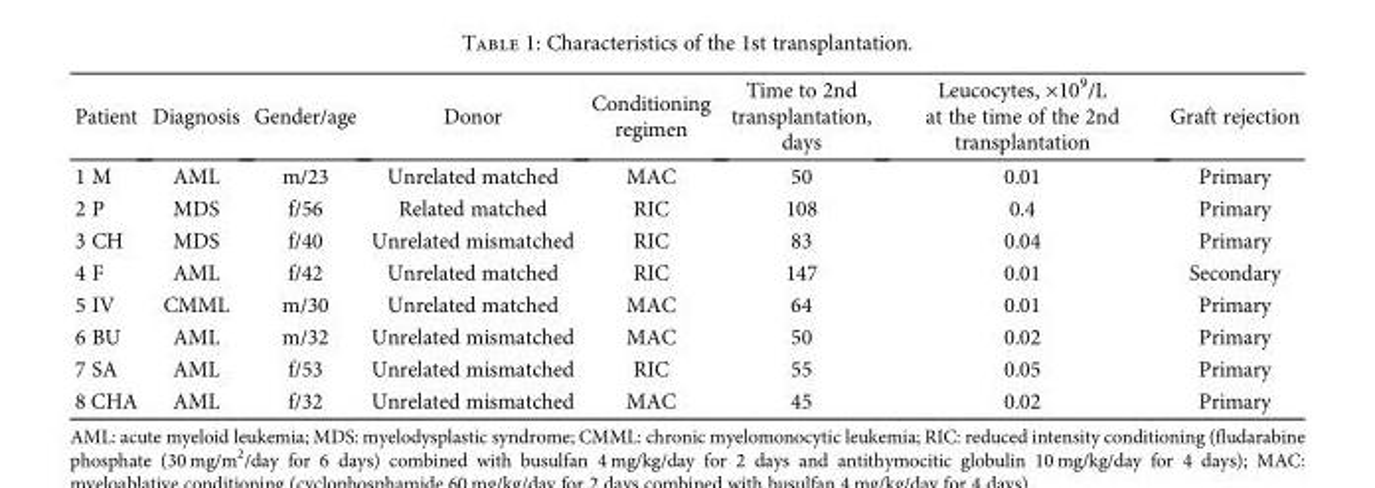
<table><thead><tr><td>Patient</td><td>Diagnosis</td><td>Gender/age</td><td>Donor</td><td>Conditioning regimen</td><td>Time to 2nd transplantation, days</td><td>Leucocytes, ×10<sup>9</sup>/L at the time of the 2nd transplantation</td><td>Graft rejection</td></tr></thead><tbody><tr><td>1 M</td><td>AML</td><td>m/23</td><td>Unrelated matched</td><td>MAC</td><td>50</td><td>0.01</td><td>Primary</td></tr><tr><td>2 P</td><td>MDS</td><td>f/56</td><td>Related matched</td><td>RIC</td><td>108</td><td>0.4</td><td>Primary</td></tr><tr><td>3 CH</td><td>MDS</td><td>f/40</td><td>Unrelated mismatched</td><td>RIC</td><td>83</td><td>0.04</td><td>Primary</td></tr><tr><td>4 F</td><td>AML</td><td>f/42</td><td>Unrelated matched</td><td>RIC</td><td>147</td><td>0.01</td><td>Secondary</td></tr><tr><td>5 IV</td><td>CMML</td><td>m/30</td><td>Unrelated matched</td><td>MAC</td><td>64</td><td>0.01</td><td>Primary</td></tr><tr><td>6 BU</td><td>AML</td><td>m/32</td><td>Unrelated mismatched</td><td>MAC</td><td>50</td><td>0.02</td><td>Primary</td></tr><tr><td>7 SA</td><td>AML</td><td>f/53</td><td>Unrelated mismatched</td><td>RIC</td><td>55</td><td>0.05</td><td>Primary</td></tr><tr><td>8 CHA</td><td>AML</td><td>f/32</td><td>Unrelated mismatched</td><td>MAC</td><td>45</td><td>0.02</td><td>Primary</td></tr></tbody></table>